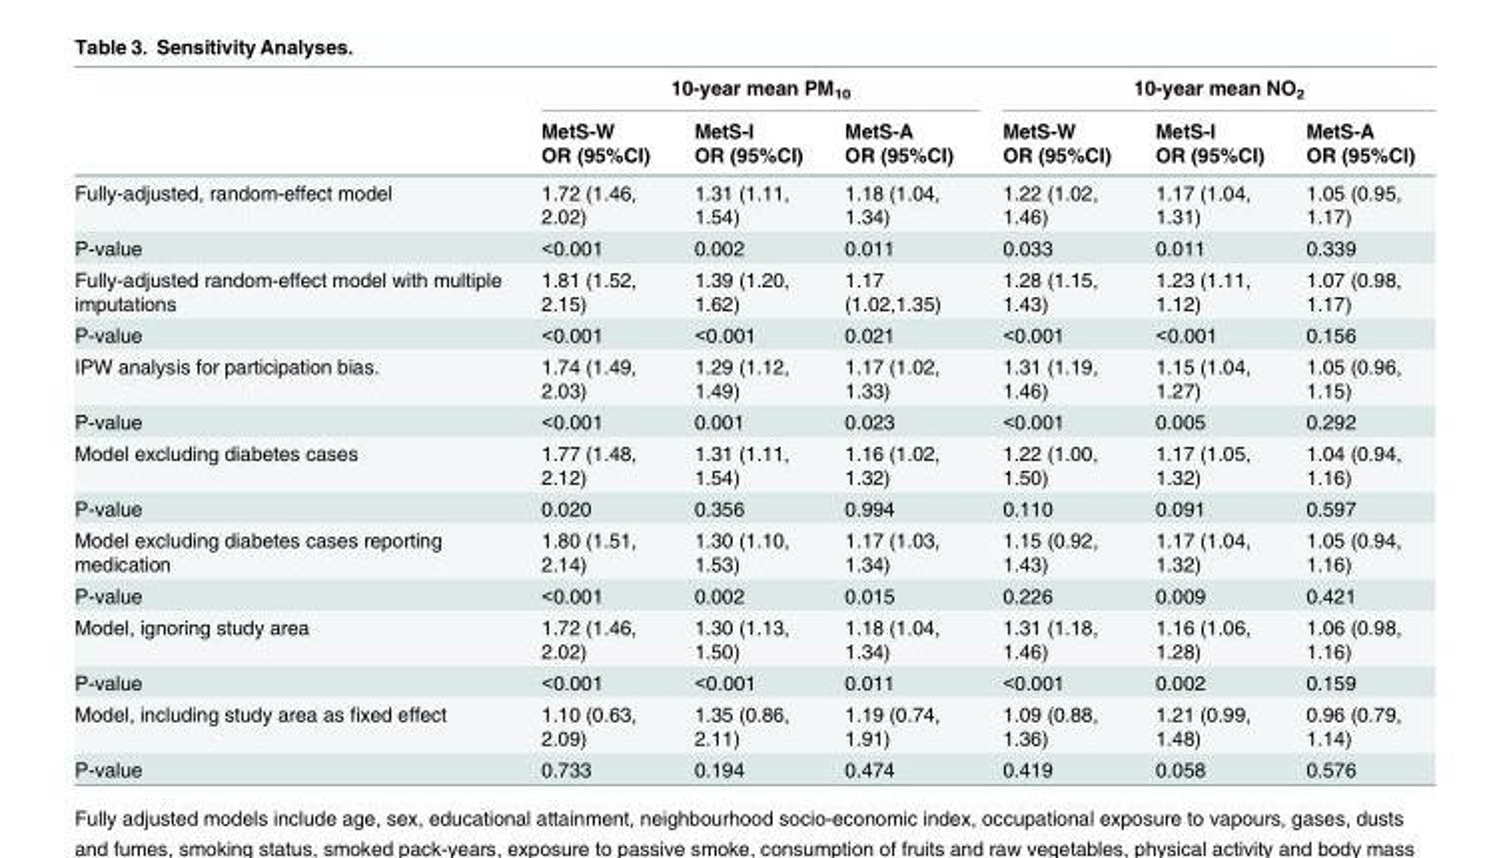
<table><thead><tr><td rowspan="3"></td><td colspan="3">10-year mean PM<sub>10</sub></td><td colspan="3">10-year mean NO<sub>2</sub></td></tr><tr><td rowspan="2">MetS-W OR (95%CI)</td><td rowspan="2">MetS-I OR (95%CI)</td><td rowspan="2">MetS-A OR (95%CI)</td><td rowspan="2">MetS-W OR (95%CI)</td><td rowspan="2">MetS-I OR (95%CI)</td><td rowspan="2">MetS-A OR (95%CI)</td></tr><tr></tr></thead><tbody><tr><td>Fully-adjusted, random-effect model</td><td>1.72 (1.46, 2.02)</td><td>1.31 (1.11, 1.54)</td><td>1.18 (1.04, 1.34)</td><td>1.22 (1.02, 1.46)</td><td>1.17 (1.04, 1.31)</td><td>1.05 (0.95, 1.17)</td></tr><tr><td>P-value</td><td>&lt;0.001</td><td>0.002</td><td>0.011</td><td>0.033</td><td>0.011</td><td>0.339</td></tr><tr><td>Fully-adjusted random-effect model with multiple imputations</td><td>1.81 (1.52, 2.15)</td><td>1.39 (1.20, 1.62)</td><td>1.17 (1.02,1.35)</td><td>1.28 (1.15, 1.43)</td><td>1.23 (1.11, 1.12)</td><td>1.07 (0.98, 1.17)</td></tr><tr><td>P-value</td><td>&lt;0.001</td><td>&lt;0.001</td><td>0.021</td><td>&lt;0.001</td><td>&lt;0.001</td><td>0.156</td></tr><tr><td>IPW analysis for participation bias.</td><td>1.74 (1.49, 2.03)</td><td>1.29 (1.12, 1.49)</td><td>1.17 (1.02, 1.33)</td><td>1.31 (1.19, 1.46)</td><td>1.15 (1.04, 1.27)</td><td>1.05 (0.96, 1.15)</td></tr><tr><td>P-value</td><td>&lt;0.001</td><td>0.001</td><td>0.023</td><td>&lt;0.001</td><td>0.005</td><td>0.292</td></tr><tr><td>Model excluding diabetes cases</td><td>1.77 (1.48, 2.12)</td><td>1.31 (1.11, 1.54)</td><td>1.16 (1.02, 1.32)</td><td>1.22 (1.00, 1.50)</td><td>1.17 (1.05, 1.32)</td><td>1.04 (0.94, 1.16)</td></tr><tr><td>P-value</td><td>0.020</td><td>0.356</td><td>0.994</td><td>0.110</td><td>0.091</td><td>0.597</td></tr><tr><td>Model excluding diabetes cases reporting medication</td><td>1.80 (1.51, 2.14)</td><td>1.30 (1.10, 1.53)</td><td>1.17 (1.03, 1.34)</td><td>1.15 (0.92, 1.43)</td><td>1.17 (1.04, 1.32)</td><td>1.05 (0.94, 1.16)</td></tr><tr><td>P-value</td><td>&lt;0.001</td><td>0.002</td><td>0.015</td><td>0.226</td><td>0.009</td><td>0.421</td></tr><tr><td>Model, ignoring study area</td><td>1.72 (1.46, 2.02)</td><td>1.30 (1.13, 1.50)</td><td>1.18 (1.04, 1.34)</td><td>1.31 (1.18, 1.46)</td><td>1.16 (1.06, 1.28)</td><td>1.06 (0.98, 1.16)</td></tr><tr><td>P-value</td><td>&lt;0.001</td><td>&lt;0.001</td><td>0.011</td><td>&lt;0.001</td><td>0.002</td><td>0.159</td></tr><tr><td>Model, including study area as fixed effect</td><td>1.10 (0.63, 2.09)</td><td>1.35 (0.86, 2.11)</td><td>1.19 (0.74, 1.91)</td><td>1.09 (0.88, 1.36)</td><td>1.21 (0.99, 1.48)</td><td>0.96 (0.79, 1.14)</td></tr><tr><td>P-value</td><td>0.733</td><td>0.194</td><td>0.474</td><td>0.419</td><td>0.058</td><td>0.576</td></tr></tbody></table>